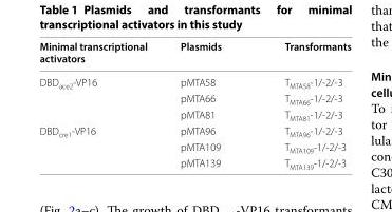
<table><thead><tr><td>Minimal transcriptional activators</td><td>Plasmids</td><td>Transformants</td></tr></thead><tbody><tr><td rowspan="3">DBD<sub>ace2</sub>-VP16</td><td>pMTA58</td><td>T<sub>MTA58</sub>-1/-2/-3</td></tr><tr><td>pMTA66</td><td>T<sub>MTA66</sub>-1/-2/-3</td></tr><tr><td>pMTA81</td><td>T<sub>MTA81</sub>-1/-2/-3</td></tr><tr><td rowspan="3">DBD<sub>cre1</sub>-VP16</td><td>pMTA96</td><td>T<sub>MTA96</sub>-1/-2/-3</td></tr><tr><td>pMTA109</td><td>T<sub>MTA109</sub>-1/-2/-3</td></tr><tr><td>pMTA139</td><td>T<sub>MTA139</sub>-1/-2/-3</td></tr></tbody></table>